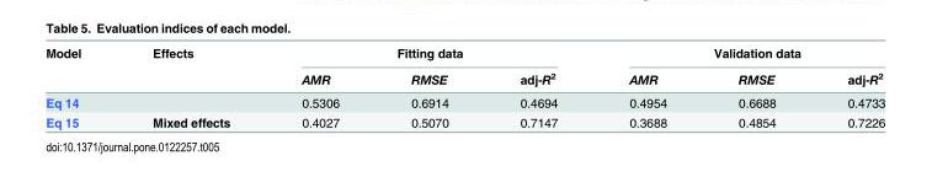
<table><thead><tr><td rowspan="2">Model</td><td rowspan="2">Effects</td><td colspan="3">Fitting data</td><td colspan="3">Validation data</td></tr><tr><td>AMR</td><td>RMSE</td><td>adj-R<sup>2</sup></td><td>AMR</td><td>RMSE</td><td>adj-R<sup>2</sup></td></tr></thead><tbody><tr><td colspan="2">Eq 14</td><td>0.5306</td><td>0.6914</td><td>0.4694</td><td>0.4954</td><td>0.6688</td><td>0.4733</td></tr><tr><td>Eq 15</td><td>Mixed effects</td><td>0.4027</td><td>0.5070</td><td>0.7147</td><td>0.3688</td><td>0.4854</td><td>0.7226</td></tr></tbody></table>